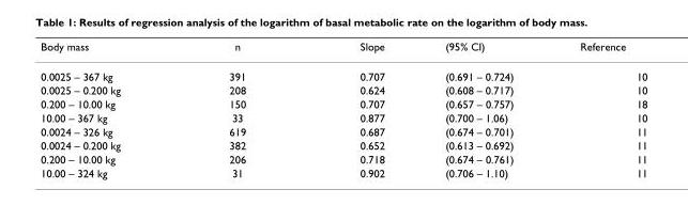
<table><thead><tr><td>Body mass</td><td>n</td><td>Slope</td><td>(95% CI)</td><td>Reference</td></tr></thead><tbody><tr><td>0.0025 – 367 kg</td><td>391</td><td>0.707</td><td>(0.691 – 0.724)</td><td>10</td></tr><tr><td>0.0025 – 0.200 kg</td><td>208</td><td>0.624</td><td>(0.608 – 0.717)</td><td>10</td></tr><tr><td>0.200 – 10.00 kg</td><td>150</td><td>0.707</td><td>(0.657 – 0.757)</td><td>18</td></tr><tr><td>10.00 – 367 kg</td><td>33</td><td>0.877</td><td>(0.700 – 1.06)</td><td>10</td></tr><tr><td>0.0024 – 326 kg</td><td>619</td><td>0.687</td><td>(0.674 – 0.701)</td><td>11</td></tr><tr><td>0.0024 – 0.200 kg</td><td>382</td><td>0.652</td><td>(0.613 – 0.692)</td><td>11</td></tr><tr><td>0.200 – 10.00 kg</td><td>206</td><td>0.718</td><td>(0.674 – 0.761)</td><td>11</td></tr><tr><td>10.00 – 324 kg</td><td>31</td><td>0.902</td><td>(0.706 – 1.10)</td><td>11</td></tr></tbody></table>